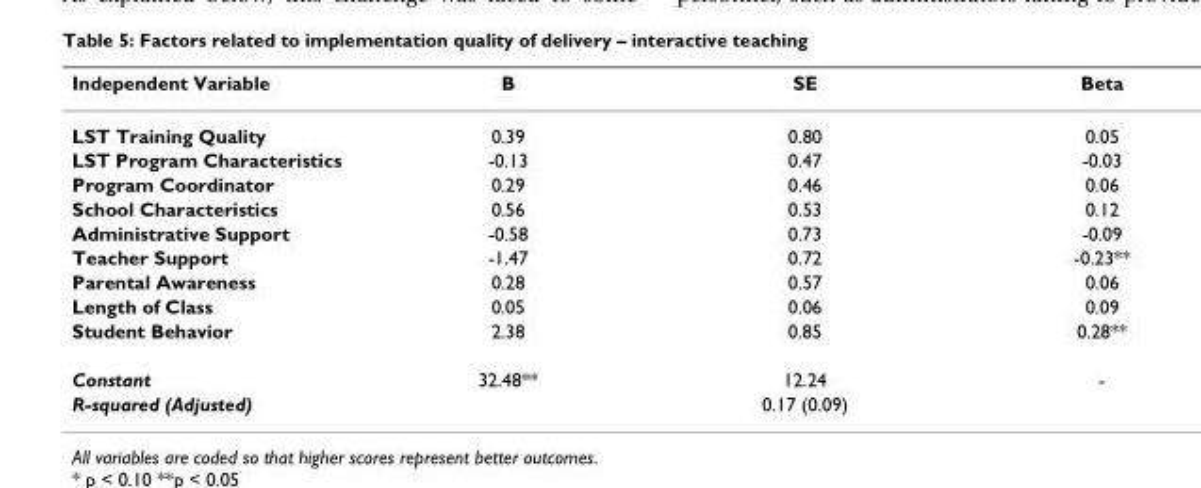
<table><thead><tr><td>Independent Variable</td><td>B</td><td>SE</td><td>Beta</td></tr></thead><tbody><tr><td>LST Training Quality</td><td>0.39</td><td>0.80</td><td>0.05</td></tr><tr><td>LST Program Characteristics</td><td>-0.13</td><td>0.47</td><td>-0.03</td></tr><tr><td>Program Coordinator</td><td>0.29</td><td>0.46</td><td>0.06</td></tr><tr><td>School Characteristics</td><td>0.56</td><td>0.53</td><td>0.12</td></tr><tr><td>Administrative Support</td><td>-0.58</td><td>0.73</td><td>-0.09</td></tr><tr><td>Teacher Support</td><td>-1.47</td><td>0.72</td><td>-0.23**</td></tr><tr><td>Parental Awareness</td><td>0.28</td><td>0.57</td><td>0.06</td></tr><tr><td>Length of Class</td><td>0.05</td><td>0.06</td><td>0.09</td></tr><tr><td>Student Behavior</td><td>2.38</td><td>0.85</td><td>0.28**</td></tr><tr><td>Constant</td><td>32.48**</td><td>12.24</td><td>-</td></tr><tr><td>R-squared (Adjusted)</td><td></td><td>0.17 (0.09)</td><td></td></tr></tbody></table>